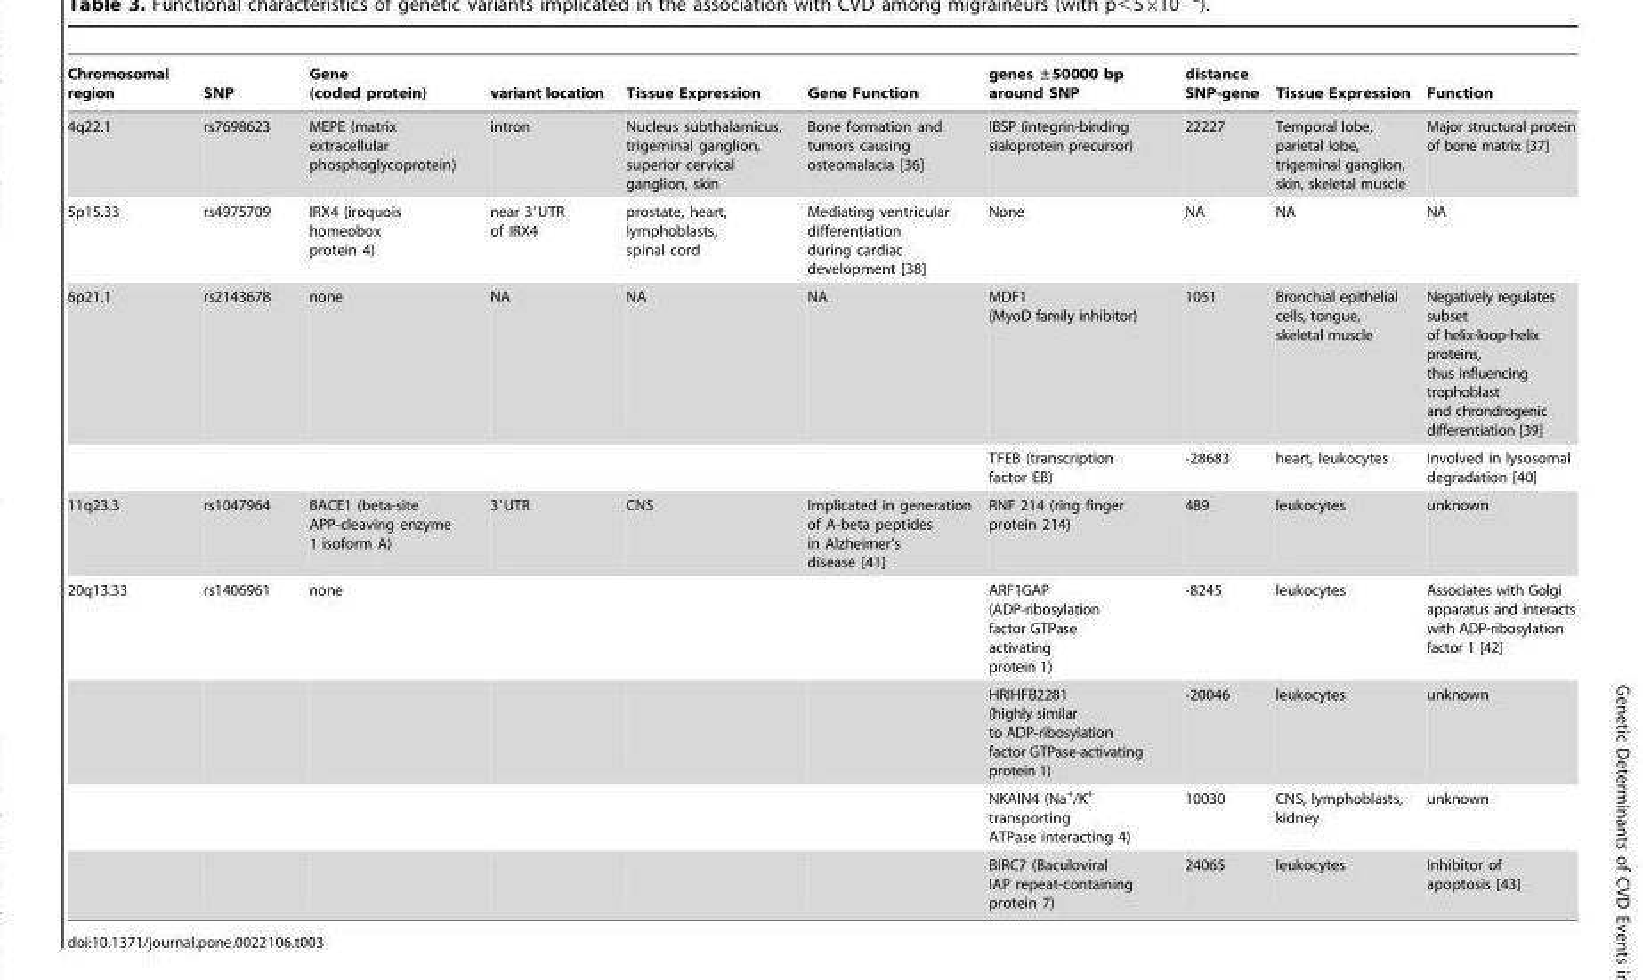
<table><thead><tr><td>Chromosomal region</td><td>SNP</td><td>Gene (coded protein)</td><td>variant location</td><td>Tissue Expression</td><td>Gene Function</td><td>genes ±50000 bp around SNP</td><td>distance SNP-gene</td><td>Tissue Expression</td><td>Function</td></tr></thead><tbody><tr><td>4q22.1</td><td>rs7698623</td><td>MEPE (matrix extracellular phosphoglycoprotein)</td><td>intron</td><td>Nucleus subthalamicus, trigeminal ganglion, superior cervical ganglion, skin</td><td>Bone formation and tumors causing osteomalacia [36]</td><td>IBSP (integrin-binding sialoprotein precursor)</td><td>22227</td><td>Temporal lobe, parietal lobe, trigeminal ganglion, skin, skeletal muscle</td><td>Major structural protein of bone matrix [37]</td></tr><tr><td>5p15.33</td><td>rs4975709</td><td>IRX4 (iroquois homeobox protein 4)</td><td>near 3′UTR of IRX4</td><td>prostate, heart, lymphoblasts, spinal cord</td><td>Mediating ventricular differentiation during cardiac development [38]</td><td>None</td><td>NA</td><td>NA</td><td>NA</td></tr><tr><td rowspan="2">6p21.1</td><td>rs2143678</td><td>none</td><td>NA</td><td>NA</td><td>NA</td><td>MDF1 (MyoD family inhibitor)</td><td>1051</td><td>Bronchial epithelial cells, tongue, skeletal muscle</td><td>Negatively regulates subset of helix-loop-helix proteins, thus influencing trophoblast and chrondrogenic differentiation [39]</td></tr><tr><td></td><td></td><td></td><td></td><td></td><td>TFEB (transcription factor EB)</td><td>-28683</td><td>heart, leukocytes</td><td>Involved in lysosomal degradation [40]</td></tr><tr><td>11q23.3</td><td>rs1047964</td><td>BACE1 (beta-site APP-cleaving enzyme 1 isoform A)</td><td>3′UTR</td><td>CNS</td><td>Implicated in generation of A-beta peptides in Alzheimer’s disease [41]</td><td>RNF 214 (ring finger protein 214)</td><td>489</td><td>leukocytes</td><td>unknown</td></tr><tr><td rowspan="4">20q13.33</td><td>rs1406961</td><td>none</td><td></td><td></td><td></td><td>ARF1GAP (ADP-ribosylation factor GTPase activating protein 1)</td><td>-8245</td><td>leukocytes</td><td>Associates with Golgi apparatus and interacts with ADP-ribosylation factor 1 [42]</td></tr><tr><td></td><td></td><td></td><td></td><td></td><td>HRIHFB2281 (highly similar to ADP-ribosylation factor GTPase-activating protein 1)</td><td>-20046</td><td>leukocytes</td><td>unknown</td></tr><tr><td></td><td></td><td></td><td></td><td></td><td>NKAIN4 (Na<sup>+</sup>/K<sup>+</sup> transporting ATPase interacting 4)</td><td>10030</td><td>CNS, lymphoblasts, kidney</td><td>unknown</td></tr><tr><td></td><td></td><td></td><td></td><td></td><td>BIRC7 (Baculoviral IAP repeat-containing protein 7)</td><td>24065</td><td>leukocytes</td><td>Inhibitor of apoptosis [43]</td></tr></tbody></table>